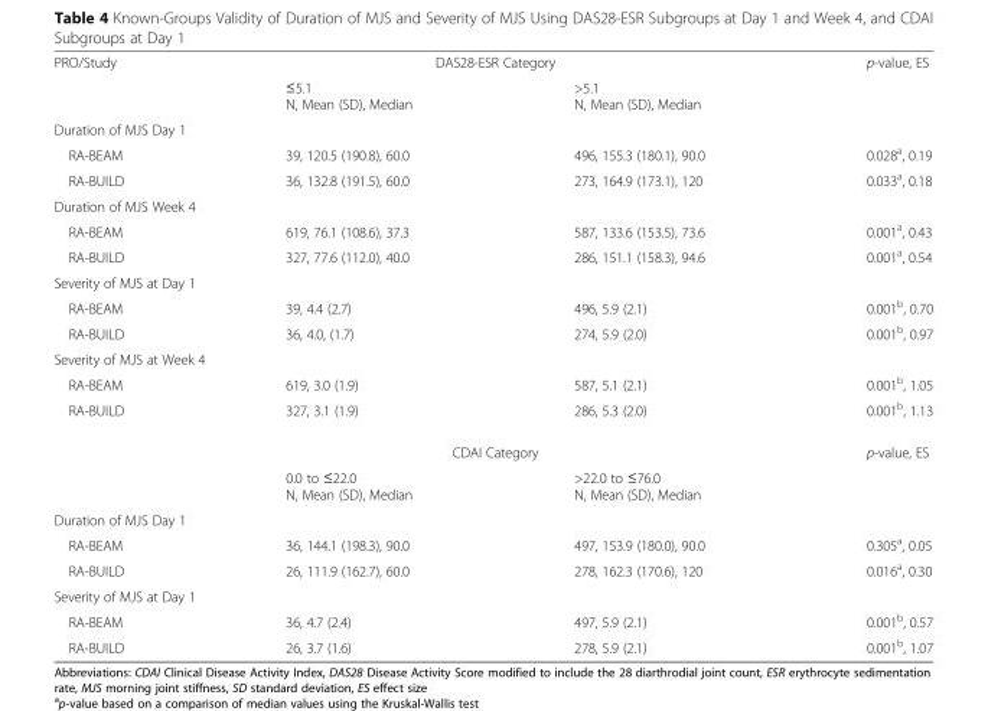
<table><tbody><tr><td rowspan="2">PRO/Study</td><td colspan="2">DAS28-ESR Category</td><td rowspan="2">p-value, ES</td></tr><tr><td>≤5.1 N, Mean (SD), Median</td><td>&gt;5.1 N, Mean (SD), Median</td></tr><tr><td colspan="4">Duration of MJS Day 1</td></tr><tr><td>RA-BEAM</td><td>39, 120.5 (190.8), 60.0</td><td>496, 155.3 (180.1), 90.0</td><td>0.028<sup>a</sup>, 0.19</td></tr><tr><td>RA-BUILD</td><td>36, 132.8 (191.5), 60.0</td><td>273, 164.9 (173.1), 120</td><td>0.033<sup>a</sup>, 0.18</td></tr><tr><td colspan="4">Duration of MJS Week 4</td></tr><tr><td>RA-BEAM</td><td>619, 76.1 (108.6), 37.3</td><td>587, 133.6 (153.5), 73.6</td><td>0.001<sup>a</sup>, 0.43</td></tr><tr><td>RA-BUILD</td><td>327, 77.6 (112.0), 40.0</td><td>286, 151.1 (158.3), 94.6</td><td>0.001<sup>a</sup>, 0.54</td></tr><tr><td colspan="4">Severity of MJS at Day 1</td></tr><tr><td>RA-BEAM</td><td>39, 4.4 (2.7)</td><td>496, 5.9 (2.1)</td><td>0.001<sup>b</sup>, 0.70</td></tr><tr><td>RA-BUILD</td><td>36, 4.0, (1.7)</td><td>274, 5.9 (2.0)</td><td>0.001<sup>b</sup>, 0.97</td></tr><tr><td colspan="4">Severity of MJS at Week 4</td></tr><tr><td>RA-BEAM</td><td>619, 3.0 (1.9)</td><td>587, 5.1 (2.1)</td><td>0.001<sup>b</sup>, 1.05</td></tr><tr><td rowspan="3">RA-BUILD</td><td>327, 3.1 (1.9)</td><td>286, 5.3 (2.0)</td><td>0.001<sup>b</sup>, 1.13</td></tr><tr><td colspan="2">CDAI Category</td><td rowspan="2">p-value, ES</td></tr><tr><td>0.0 to ≤22.0 N, Mean (SD), Median</td><td>&gt;22.0 to ≤76.0 N, Mean (SD), Median</td></tr><tr><td colspan="4">Duration of MJS Day 1</td></tr><tr><td>RA-BEAM</td><td>36, 144.1 (198.3), 90.0</td><td>497, 153.9 (180.0), 90.0</td><td>0.305<sup>a</sup>, 0.05</td></tr><tr><td>RA-BUILD</td><td>26, 111.9 (162.7), 60.0</td><td>278, 162.3 (170.6), 120</td><td>0.016<sup>a</sup>, 0.30</td></tr><tr><td colspan="4">Severity of MJS at Day 1</td></tr><tr><td>RA-BEAM</td><td>36, 4.7 (2.4)</td><td>497, 5.9 (2.1)</td><td>0.001<sup>b</sup>, 0.57</td></tr><tr><td>RA-BUILD</td><td>26, 3.7 (1.6)</td><td>278, 5.9 (2.1)</td><td>0.001<sup>b</sup>, 1.07</td></tr></tbody></table>